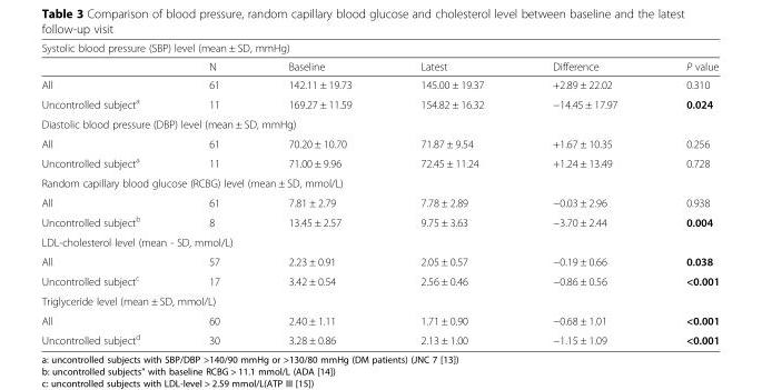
<table><thead><tr><td colspan="6">Systolic blood pressure (SBP) level (mean ± SD, mmHg)</td></tr><tr><td></td><td>N</td><td>Baseline</td><td>Latest</td><td>Difference</td><td>P value</td></tr></thead><tbody><tr><td>All</td><td>61</td><td>142.11 ± 19.73</td><td>145.00 ± 19.37</td><td>+2.89 ± 22.02</td><td>0.310</td></tr><tr><td>Uncontrolled subject<sup>a</sup></td><td>11</td><td>169.27 ± 11.59</td><td>154.82 ± 16.32</td><td>−14.45 ± 17.97</td><td>0.024</td></tr><tr><td colspan="6">Diastolic blood pressure (DBP) level (mean ± SD, mmHg)</td></tr><tr><td>All</td><td>61</td><td>70.20 ± 10.70</td><td>71.87 ± 9.54</td><td>+1.67 ± 10.35</td><td>0.256</td></tr><tr><td>Uncontrolled subject<sup>a</sup></td><td>11</td><td>71.00 ± 9.96</td><td>72.45 ± 11.24</td><td>+1.24 ± 13.49</td><td>0.728</td></tr><tr><td colspan="6">Random capillary blood glucose (RCBG) level (mean ± SD, mmol/L)</td></tr><tr><td>All</td><td>61</td><td>7.81 ± 2.79</td><td>7.78 ± 2.89</td><td>−0.03 ± 2.96</td><td>0.938</td></tr><tr><td>Uncontrolled subject<sup>b</sup></td><td>8</td><td>13.45 ± 2.57</td><td>9.75 ± 3.63</td><td>−3.70 ± 2.44</td><td>0.004</td></tr><tr><td colspan="6">LDL-cholesterol level (mean - SD, mmol/L)</td></tr><tr><td>All</td><td>57</td><td>2.23 ± 0.91</td><td>2.05 ± 0.57</td><td>−0.19 ± 0.66</td><td>0.038</td></tr><tr><td>Uncontrolled subject<sup>c</sup></td><td>17</td><td>3.42 ± 0.54</td><td>2.56 ± 0.46</td><td>−0.86 ± 0.56</td><td>&lt;0.001</td></tr><tr><td colspan="6">Triglyceride level (mean ± SD, mmol/L)</td></tr><tr><td>All</td><td>60</td><td>2.40 ± 1.11</td><td>1.71 ± 0.90</td><td>−0.68 ± 1.01</td><td>&lt;0.001</td></tr><tr><td>Uncontrolled subject<sup>d</sup></td><td>30</td><td>3.28 ± 0.86</td><td>2.13 ± 1.00</td><td>−1.15 ± 1.09</td><td>&lt;0.001</td></tr></tbody></table>